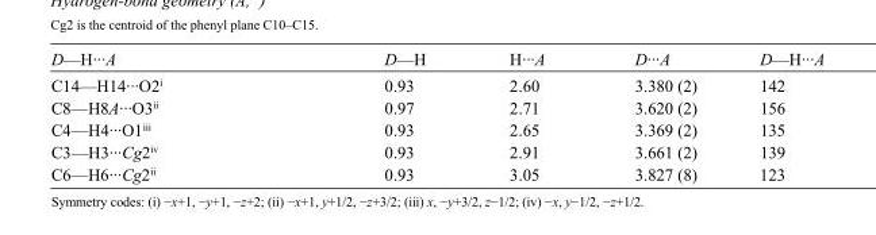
<table><tbody><tr><td>D—H···A</td><td>D—H</td><td>H···A</td><td>D···A</td><td>D—H···A</td></tr><tr><td>C14—H14···O2<sup>i</sup></td><td>0.93</td><td>2.60</td><td>3.380 (2)</td><td>142</td></tr><tr><td>C8—H8A···O3<sup>ii</sup></td><td>0.97</td><td>2.71</td><td>3.620 (2)</td><td>156</td></tr><tr><td>C4—H4···O1<sup>iii</sup></td><td>0.93</td><td>2.65</td><td>3.369 (2)</td><td>135</td></tr><tr><td>C3—H3···Cg2<sup>iv</sup></td><td>0.93</td><td>2.91</td><td>3.661 (2)</td><td>139</td></tr><tr><td>C6—H6···Cg2<sup>ii</sup></td><td>0.93</td><td>3.05</td><td>3.827 (8)</td><td>123</td></tr></tbody></table>